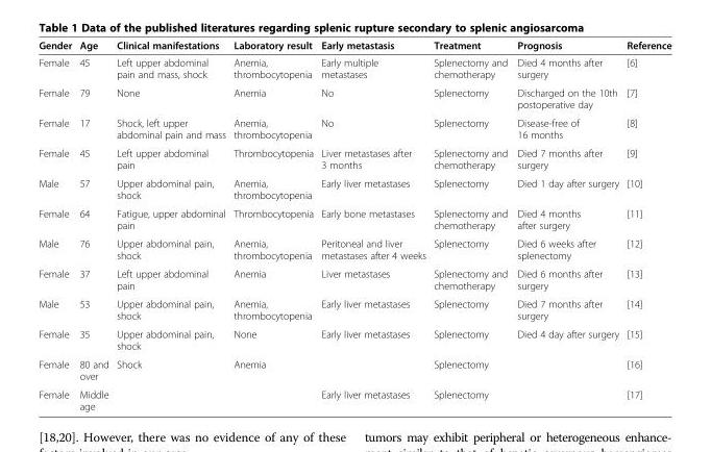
<table><thead><tr><td>Gender</td><td>Age</td><td>Clinical manifestations</td><td>Laboratory result</td><td>Early metastasis</td><td>Treatment</td><td>Prognosis</td><td>Reference</td></tr></thead><tbody><tr><td>Female</td><td>45</td><td>Left upper abdominal pain and mass, shock</td><td>Anemia, thrombocytopenia</td><td>Early multiple metastases</td><td>Splenectomy and chemotherapy</td><td>Died 4 months after surgery</td><td>[6]</td></tr><tr><td>Female</td><td>79</td><td>None</td><td>Anemia</td><td>No</td><td>Splenectomy</td><td>Discharged on the 10th postoperative day</td><td>[7]</td></tr><tr><td>Female</td><td>17</td><td>Shock, left upper abdominal pain and mass</td><td>Anemia, thrombocytopenia</td><td>No</td><td>Splenectomy</td><td>Disease-free of 16 months</td><td>[8]</td></tr><tr><td>Female</td><td>45</td><td>Left upper abdominal pain</td><td>Thrombocytopenia</td><td>Liver metastases after 3 months</td><td>Splenectomy and chemotherapy</td><td>Died 7 months after surgery</td><td>[9]</td></tr><tr><td>Male</td><td>57</td><td>Upper abdominal pain, shock</td><td>Anemia, thrombocytopenia</td><td>Early liver metastases</td><td>Splenectomy</td><td>Died 1 day after surgery</td><td>[10]</td></tr><tr><td>Female</td><td>64</td><td>Fatigue, upper abdominal pain</td><td>Thrombocytopenia</td><td>Early bone metastases</td><td>Splenectomy and chemotherapy</td><td>Died 4 months after surgery</td><td>[11]</td></tr><tr><td>Male</td><td>76</td><td>Upper abdominal pain, shock</td><td>Anemia, thrombocytopenia</td><td>Peritoneal and liver metastases after 4 weeks</td><td>Splenectomy</td><td>Died 6 weeks after splenectomy</td><td>[12]</td></tr><tr><td>Female</td><td>37</td><td>Left upper abdominal pain</td><td>Anemia</td><td>Liver metastases</td><td>Splenectomy and chemotherapy</td><td>Died 6 months after surgery</td><td>[13]</td></tr><tr><td>Male</td><td>53</td><td>Upper abdominal pain, shock</td><td>Anemia, thrombocytopenia</td><td>Early liver metastases</td><td>Splenectomy</td><td>Died 7 months after surgery</td><td>[14]</td></tr><tr><td>Female</td><td>35</td><td>Upper abdominal pain, shock</td><td>None</td><td>Early liver metastases</td><td>Splenectomy</td><td>Died 4 day after surgery</td><td>[15]</td></tr><tr><td>Female</td><td>80 and over</td><td>Shock</td><td>Anemia</td><td></td><td>Splenectomy</td><td></td><td>[16]</td></tr><tr><td>Female</td><td>Middle age</td><td></td><td></td><td>Early liver metastases</td><td>Splenectomy</td><td></td><td>[17]</td></tr></tbody></table>